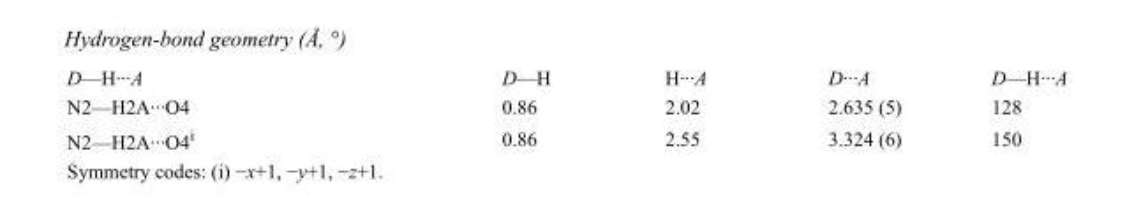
<table><tbody><tr><td>D—H···A</td><td>D—H</td><td>H···A</td><td>D···A</td><td>D—H···A</td></tr><tr><td>N2—H2A···O4</td><td>0.86</td><td>2.02</td><td>2.635 (5)</td><td>128</td></tr><tr><td>N2—H2A···O4<sup>i</sup></td><td>0.86</td><td>2.55</td><td>3.324 (6)</td><td>150</td></tr></tbody></table>